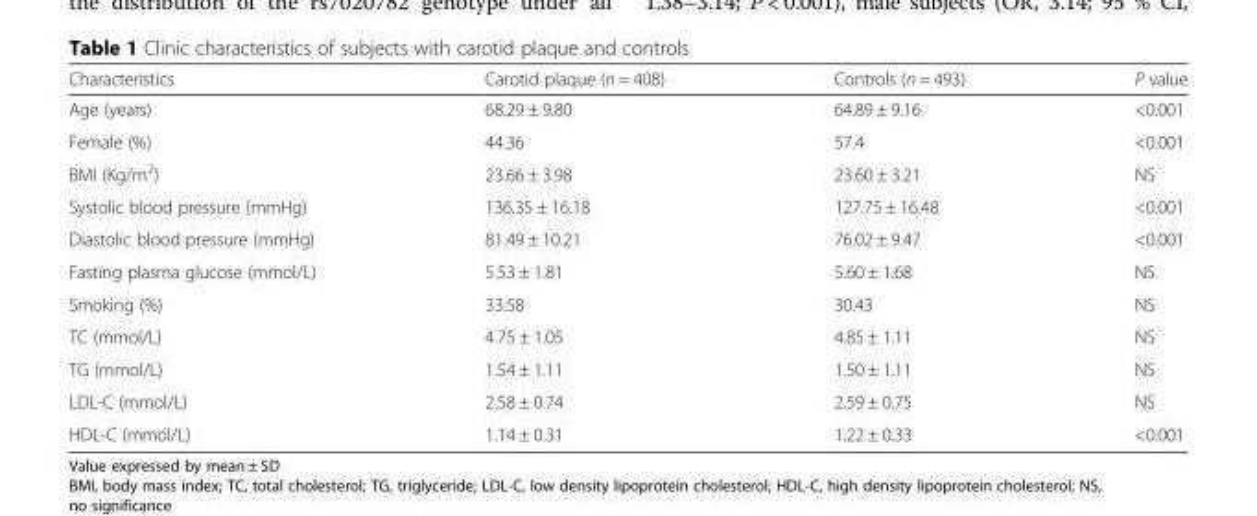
<table><thead><tr><td>Characteristics</td><td>Carotid plaque (n = 408)</td><td>Controls (n = 493)</td><td>P value</td></tr></thead><tbody><tr><td>Age (years)</td><td>68.29 ± 9.80</td><td>64.89 ± 9.16</td><td>&lt;0.001</td></tr><tr><td>Female (%)</td><td>44.36</td><td>57.4</td><td>&lt;0.001</td></tr><tr><td>BMI (Kg/m<sup>2</sup>)</td><td>23.66 ± 3.98</td><td>23.60 ± 3.21</td><td>NS</td></tr><tr><td>Systolic blood pressure (mmHg)</td><td>136.35 ± 16.18</td><td>127.75 ± 16.48</td><td>&lt;0.001</td></tr><tr><td>Diastolic blood pressure (mmHg)</td><td>81.49 ± 10.21</td><td>76.02 ± 9.47</td><td>&lt;0.001</td></tr><tr><td>Fasting plasma glucose (mmol/L)</td><td>5.53 ± 1.81</td><td>5.60 ± 1.68</td><td>NS</td></tr><tr><td>Smoking (%)</td><td>33.58</td><td>30.43</td><td>NS</td></tr><tr><td>TC (mmol/L)</td><td>4.75 ± 1.05</td><td>4.85 ± 1.11</td><td>NS</td></tr><tr><td>TG (mmol/L)</td><td>1.54 ± 1.11</td><td>1.50 ± 1.11</td><td>NS</td></tr><tr><td>LDL-C (mmol/L)</td><td>2.58 ± 0.74</td><td>2.59 ± 0.75</td><td>NS</td></tr><tr><td>HDL-C (mmol/L)</td><td>1.14 ± 0.31</td><td>1.22 ± 0.33</td><td>&lt;0.001</td></tr></tbody></table>